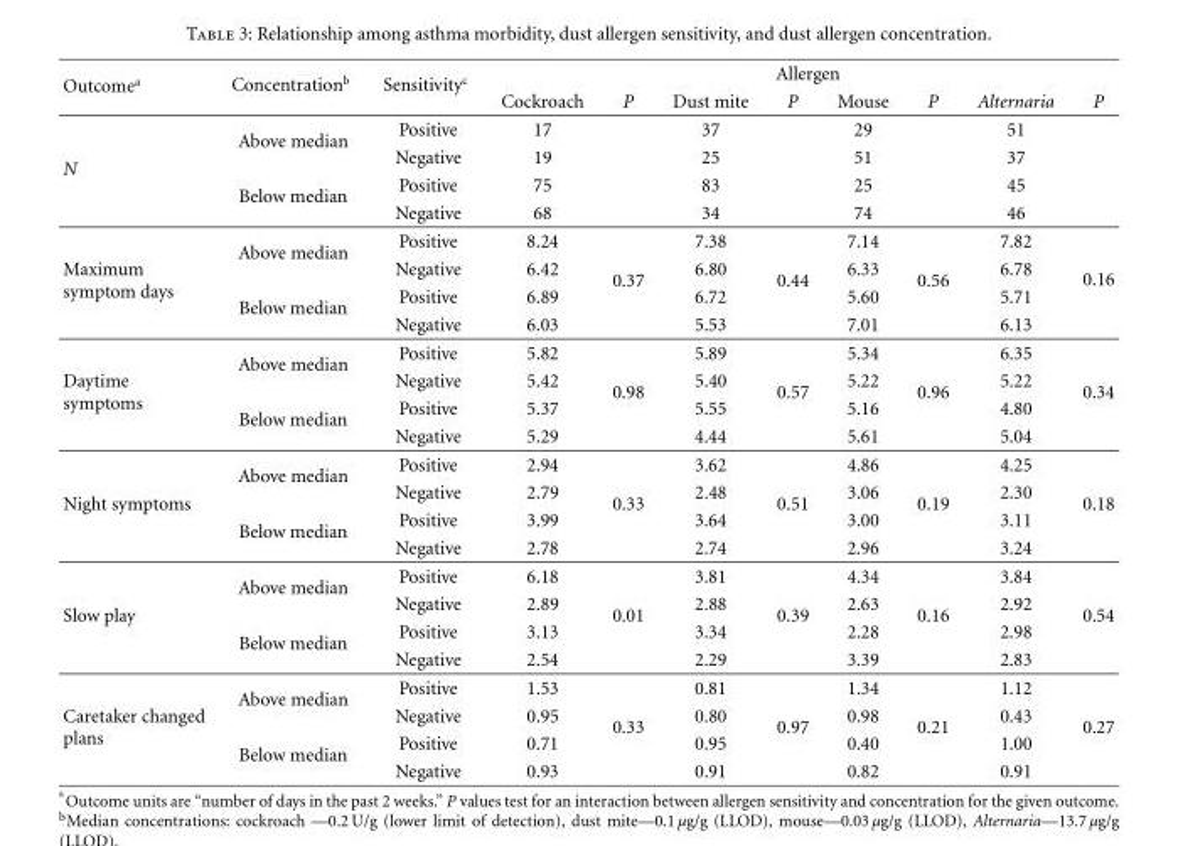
<table><thead><tr><td rowspan="2">Outcome<sup>a</sup></td><td rowspan="2">Concentration<sup>b</sup></td><td rowspan="2">Sensitivity<sup>c</sup></td><td colspan="8">Allergen</td></tr><tr><td>Cockroach</td><td>P</td><td>Dust mite</td><td>P</td><td>Mouse</td><td>P</td><td>Alternaria</td><td>P</td></tr></thead><tbody><tr><td rowspan="4">N</td><td rowspan="2">Above median</td><td>Positive</td><td>17</td><td></td><td>37</td><td></td><td>29</td><td></td><td>51</td><td></td></tr><tr><td>Negative</td><td>19</td><td></td><td>25</td><td></td><td>51</td><td></td><td>37</td><td></td></tr><tr><td rowspan="2">Below median</td><td>Positive</td><td>75</td><td></td><td>83</td><td></td><td>25</td><td></td><td>45</td><td></td></tr><tr><td>Negative</td><td>68</td><td></td><td>34</td><td></td><td>74</td><td></td><td>46</td><td></td></tr><tr><td rowspan="4">Maximum symptom days</td><td rowspan="2">Above median</td><td>Positive</td><td>8.24</td><td></td><td>7.38</td><td></td><td>7.14</td><td></td><td>7.82</td><td rowspan="4">0.16</td></tr><tr><td>Negative</td><td>6.42</td><td rowspan="2">0.37</td><td>6.80</td><td rowspan="2">0.44</td><td>6.33</td><td rowspan="2">0.56</td><td>6.78</td></tr><tr><td rowspan="2">Below median</td><td>Positive</td><td>6.89</td><td>6.72</td><td>5.60</td><td>5.71</td></tr><tr><td>Negative</td><td>6.03</td><td></td><td>5.53</td><td></td><td>7.01</td><td></td><td>6.13</td></tr><tr><td rowspan="4">Daytime symptoms</td><td rowspan="2">Above median</td><td>Positive</td><td>5.82</td><td></td><td>5.89</td><td></td><td>5.34</td><td></td><td>6.35</td><td></td></tr><tr><td>Negative</td><td>5.42</td><td rowspan="2">0.98</td><td>5.40</td><td rowspan="2">0.57</td><td>5.22</td><td rowspan="2">0.96</td><td>5.22</td><td rowspan="2">0.34</td></tr><tr><td rowspan="2">Below median</td><td>Positive</td><td>5.37</td><td>5.55</td><td>5.16</td><td>4.80</td></tr><tr><td>Negative</td><td>5.29</td><td></td><td>4.44</td><td></td><td>5.61</td><td></td><td>5.04</td><td></td></tr><tr><td rowspan="4">Night symptoms</td><td rowspan="2">Above median</td><td>Positive</td><td>2.94</td><td></td><td>3.62</td><td></td><td>4.86</td><td></td><td>4.25</td><td></td></tr><tr><td>Negative</td><td>2.79</td><td rowspan="2">0.33</td><td>2.48</td><td rowspan="2">0.51</td><td>3.06</td><td rowspan="2">0.19</td><td>2.30</td><td rowspan="2">0.18</td></tr><tr><td rowspan="2">Below median</td><td>Positive</td><td>3.99</td><td>3.64</td><td>3.00</td><td>3.11</td></tr><tr><td>Negative</td><td>2.78</td><td></td><td>2.74</td><td></td><td>2.96</td><td></td><td>3.24</td><td></td></tr><tr><td rowspan="4">Slow play</td><td rowspan="2">Above median</td><td>Positive</td><td>6.18</td><td></td><td>3.81</td><td></td><td>4.34</td><td></td><td>3.84</td><td></td></tr><tr><td>Negative</td><td>2.89</td><td rowspan="2">0.01</td><td>2.88</td><td rowspan="2">0.39</td><td>2.63</td><td rowspan="2">0.16</td><td>2.92</td><td rowspan="2">0.54</td></tr><tr><td rowspan="2">Below median</td><td>Positive</td><td>3.13</td><td>3.34</td><td>2.28</td><td>2.98</td></tr><tr><td>Negative</td><td>2.54</td><td></td><td>2.29</td><td></td><td>3.39</td><td></td><td>2.83</td><td></td></tr><tr><td rowspan="4">Caretaker changed plans</td><td rowspan="2">Above median</td><td>Positive</td><td>1.53</td><td></td><td>0.81</td><td></td><td>1.34</td><td></td><td>1.12</td><td></td></tr><tr><td>Negative</td><td>0.95</td><td rowspan="2">0.33</td><td>0.80</td><td rowspan="2">0.97</td><td>0.98</td><td rowspan="2">0.21</td><td>0.43</td><td rowspan="2">0.27</td></tr><tr><td rowspan="2">Below median</td><td>Positive</td><td>0.71</td><td>0.95</td><td>0.40</td><td>1.00</td></tr><tr><td>Negative</td><td>0.93</td><td></td><td>0.91</td><td></td><td>0.82</td><td></td><td>0.91</td><td></td></tr></tbody></table>